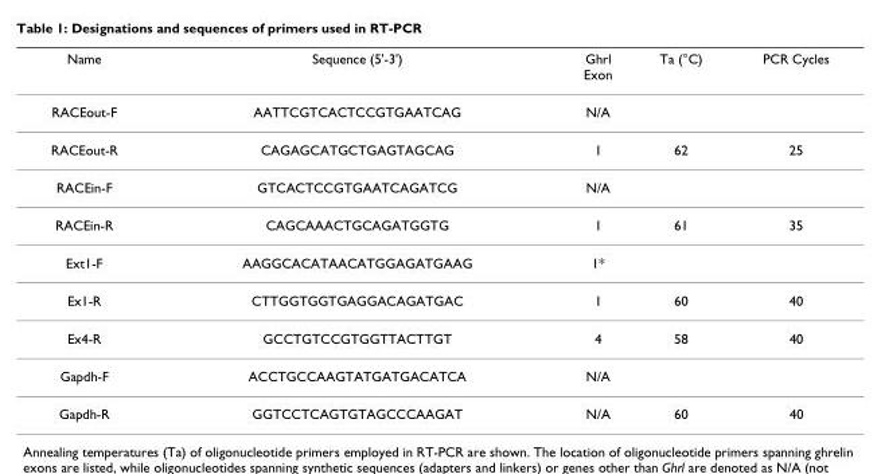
<table><thead><tr><td>Name</td><td>Sequence (5&#x27;-3&#x27;)</td><td>Ghrl Exon</td><td>Ta (°C)</td><td>PCR Cycles</td></tr></thead><tbody><tr><td>RACEout-F</td><td>AATTCGTCACTCCGTGAATCAG</td><td>N/A</td><td></td><td></td></tr><tr><td>RACEout-R</td><td>CAGAGCATGCTGAGTAGCAG</td><td>1</td><td>62</td><td>25</td></tr><tr><td>RACEin-F</td><td>GTCACTCCGTGAATCAGATCG</td><td>N/A</td><td></td><td></td></tr><tr><td>RACEin-R</td><td>CAGCAAACTGCAGATGGTG</td><td>1</td><td>61</td><td>35</td></tr><tr><td>Ext1-F</td><td>AAGGCACATAACATGGAGATGAAG</td><td>1*</td><td></td><td></td></tr><tr><td>Ex1-R</td><td>CTTGGTGGTGAGGACAGATGAC</td><td>1</td><td>60</td><td>40</td></tr><tr><td>Ex4-R</td><td>GCCTGTCCGTGGTTACTTGT</td><td>4</td><td>58</td><td>40</td></tr><tr><td>Gapdh-F</td><td>ACCTGCCAAGTATGATGACATCA</td><td>N/A</td><td></td><td></td></tr><tr><td>Gapdh-R</td><td>GGTCCTCAGTGTAGCCCAAGAT</td><td>N/A</td><td>60</td><td>40</td></tr></tbody></table>